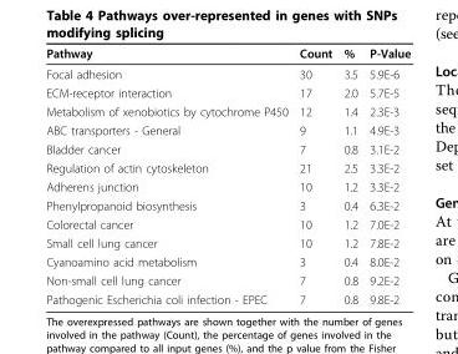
<table><thead><tr><td>Pathway</td><td>Count</td><td>%</td><td>P-Value</td></tr></thead><tbody><tr><td>Focal adhesion</td><td>30</td><td>3.5</td><td>5.9E-6</td></tr><tr><td>ECM-receptor interaction</td><td>17</td><td>2.0</td><td>5.7E-5</td></tr><tr><td>Metabolism of xenobiotics by cytochrome P450</td><td>12</td><td>1.4</td><td>2.3E-3</td></tr><tr><td>ABC transporters - General</td><td>9</td><td>1.1</td><td>4.9E-3</td></tr><tr><td>Bladder cancer</td><td>7</td><td>0.8</td><td>3.1E-2</td></tr><tr><td>Regulation of actin cytoskeleton</td><td>21</td><td>2.5</td><td>3.3E-2</td></tr><tr><td>Adherens junction</td><td>10</td><td>1.2</td><td>3.3E-2</td></tr><tr><td>Phenylpropanoid biosynthesis</td><td>3</td><td>0.4</td><td>6.3E-2</td></tr><tr><td>Colorectal cancer</td><td>10</td><td>1.2</td><td>7.0E-2</td></tr><tr><td>Small cell lung cancer</td><td>10</td><td>1.2</td><td>7.8E-2</td></tr><tr><td>Cyanoamino acid metabolism</td><td>3</td><td>0.4</td><td>8.0E-2</td></tr><tr><td>Non-small cell lung cancer</td><td>7</td><td>0.8</td><td>9.2E-2</td></tr><tr><td>Pathogenic Escherichia coli infection - EPEC</td><td>7</td><td>0.8</td><td>9.8E-2</td></tr></tbody></table>